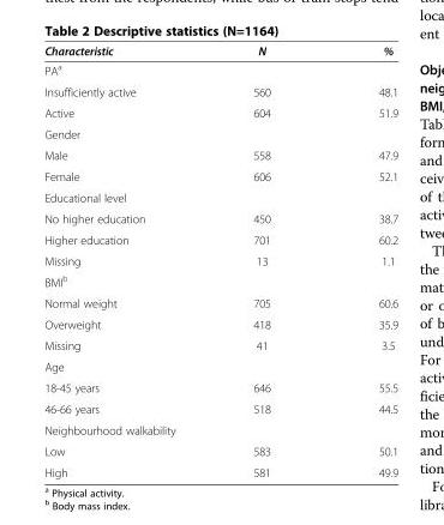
<table><thead><tr><td>Characteristic</td><td>N</td><td>%</td></tr></thead><tbody><tr><td colspan="3">PA<sup>a</sup></td></tr><tr><td>Insufficiently active</td><td>560</td><td>48.1</td></tr><tr><td>Active</td><td>604</td><td>51.9</td></tr><tr><td colspan="3">Gender</td></tr><tr><td>Male</td><td>558</td><td>47.9</td></tr><tr><td>Female</td><td>606</td><td>52.1</td></tr><tr><td colspan="3">Educational level</td></tr><tr><td>No higher education</td><td>450</td><td>38.7</td></tr><tr><td>Higher education</td><td>701</td><td>60.2</td></tr><tr><td>Missing</td><td>13</td><td>1.1</td></tr><tr><td colspan="3">BMI<sup>b</sup></td></tr><tr><td>Normal weight</td><td>705</td><td>60.6</td></tr><tr><td>Overweight</td><td>418</td><td>35.9</td></tr><tr><td>Missing</td><td>41</td><td>3.5</td></tr><tr><td colspan="3">Age</td></tr><tr><td>18-45 years</td><td>646</td><td>55.5</td></tr><tr><td>46-66 years</td><td>518</td><td>44.5</td></tr><tr><td colspan="3">Neighbourhood walkability</td></tr><tr><td>Low</td><td>583</td><td>50.1</td></tr><tr><td>High</td><td>581</td><td>49.9</td></tr></tbody></table>